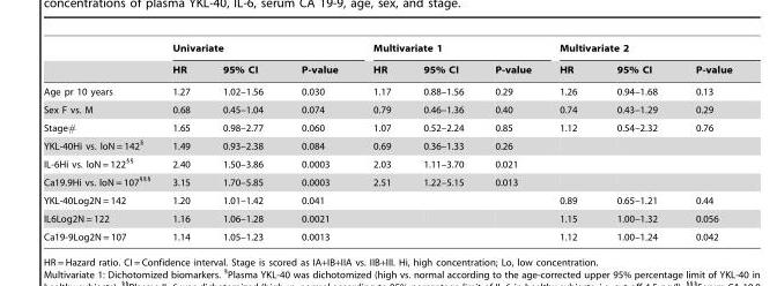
<table><thead><tr><td rowspan="2"></td><td colspan="3">Univariate</td><td colspan="3">Multivariate 1</td><td colspan="3">Multivariate 2</td></tr><tr><td>HR</td><td>95% CI</td><td>P-value</td><td>HR</td><td>95% CI</td><td>P-value</td><td>HR</td><td>95% CI</td><td>P-value</td></tr></thead><tbody><tr><td>Age pr 10 years</td><td>1.27</td><td>1.02–1.56</td><td>0.030</td><td>1.17</td><td>0.88–1.56</td><td>0.29</td><td>1.26</td><td>0.94–1.68</td><td>0.13</td></tr><tr><td>Sex F vs. M</td><td>0.68</td><td>0.45–1.04</td><td>0.074</td><td>0.79</td><td>0.46–1.36</td><td>0.40</td><td>0.74</td><td>0.43–1.29</td><td>0.29</td></tr><tr><td>Stage#</td><td>1.65</td><td>0.98–2.77</td><td>0.060</td><td>1.07</td><td>0.52–2.24</td><td>0.85</td><td>1.12</td><td>0.54–2.32</td><td>0.76</td></tr><tr><td>YKL-40Hi vs. loN = 142<sup>§</sup></td><td>1.49</td><td>0.93–2.38</td><td>0.084</td><td>0.69</td><td>0.36–1.33</td><td>0.26</td><td></td><td></td><td></td></tr><tr><td>IL-6Hi vs. loN = 122<sup>§§</sup></td><td>2.40</td><td>1.50–3.86</td><td>0.0003</td><td>2.03</td><td>1.11–3.70</td><td>0.021</td><td></td><td></td><td></td></tr><tr><td>Ca19.9Hi vs. loN = 107<sup>§§§</sup></td><td>3.15</td><td>1.70–5.85</td><td>0.0003</td><td>2.51</td><td>1.22–5.15</td><td>0.013</td><td></td><td></td><td></td></tr><tr><td>YKL-40Log2N = 142</td><td>1.20</td><td>1.01–1.42</td><td>0.041</td><td></td><td></td><td></td><td>0.89</td><td>0.65–1.21</td><td>0.44</td></tr><tr><td>IL6Log2N = 122</td><td>1.16</td><td>1.06–1.28</td><td>0.0021</td><td></td><td></td><td></td><td>1.15</td><td>1.00–1.32</td><td>0.056</td></tr><tr><td>Ca19-9Log2N = 107</td><td>1.14</td><td>1.05–1.23</td><td>0.0013</td><td></td><td></td><td></td><td>1.12</td><td>1.00–1.24</td><td>0.042</td></tr></tbody></table>